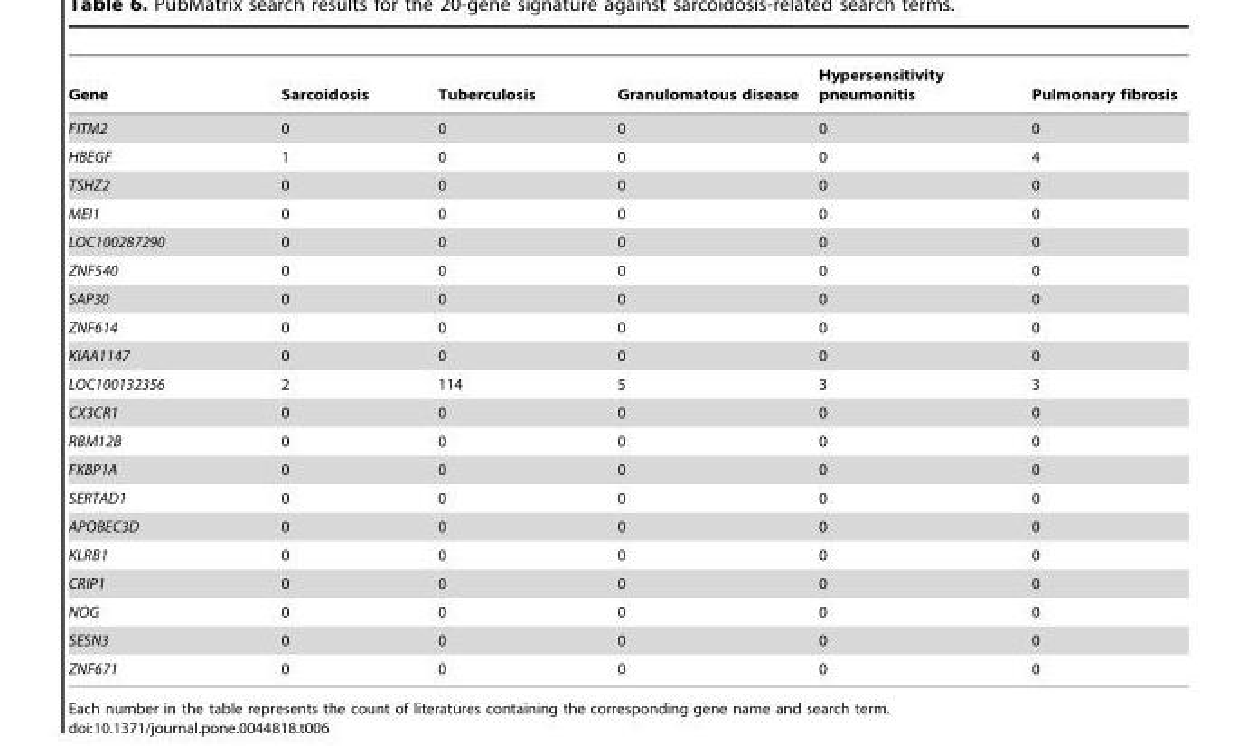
<table><thead><tr><td>Gene</td><td>Sarcoidosis</td><td>Tuberculosis</td><td>Granulomatous disease</td><td>Hypersensitivity pneumonitis</td><td>Pulmonary fibrosis</td></tr></thead><tbody><tr><td>FITM2</td><td>0</td><td>0</td><td>0</td><td>0</td><td>0</td></tr><tr><td>HBEGF</td><td>1</td><td>0</td><td>0</td><td>0</td><td>4</td></tr><tr><td>TSHZ2</td><td>0</td><td>0</td><td>0</td><td>0</td><td>0</td></tr><tr><td>MEI1</td><td>0</td><td>0</td><td>0</td><td>0</td><td>0</td></tr><tr><td>LOC100287290</td><td>0</td><td>0</td><td>0</td><td>0</td><td>0</td></tr><tr><td>ZNF540</td><td>0</td><td>0</td><td>0</td><td>0</td><td>0</td></tr><tr><td>SAP30</td><td>0</td><td>0</td><td>0</td><td>0</td><td>0</td></tr><tr><td>ZNF614</td><td>0</td><td>0</td><td>0</td><td>0</td><td>0</td></tr><tr><td>KIAA1147</td><td>0</td><td>0</td><td>0</td><td>0</td><td>0</td></tr><tr><td>LOC100132356</td><td>2</td><td>114</td><td>5</td><td>3</td><td>3</td></tr><tr><td>CX3CR1</td><td>0</td><td>0</td><td>0</td><td>0</td><td>0</td></tr><tr><td>RBM12B</td><td>0</td><td>0</td><td>0</td><td>0</td><td>0</td></tr><tr><td>FKBP1A</td><td>0</td><td>0</td><td>0</td><td>0</td><td>0</td></tr><tr><td>SERTAD1</td><td>0</td><td>0</td><td>0</td><td>0</td><td>0</td></tr><tr><td>APOBEC3D</td><td>0</td><td>0</td><td>0</td><td>0</td><td>0</td></tr><tr><td>KLRB1</td><td>0</td><td>0</td><td>0</td><td>0</td><td>0</td></tr><tr><td>CRIP1</td><td>0</td><td>0</td><td>0</td><td>0</td><td>0</td></tr><tr><td>NOG</td><td>0</td><td>0</td><td>0</td><td>0</td><td>0</td></tr><tr><td>SESN3</td><td>0</td><td>0</td><td>0</td><td>0</td><td>0</td></tr><tr><td>ZNF671</td><td>0</td><td>0</td><td>0</td><td>0</td><td>0</td></tr></tbody></table>